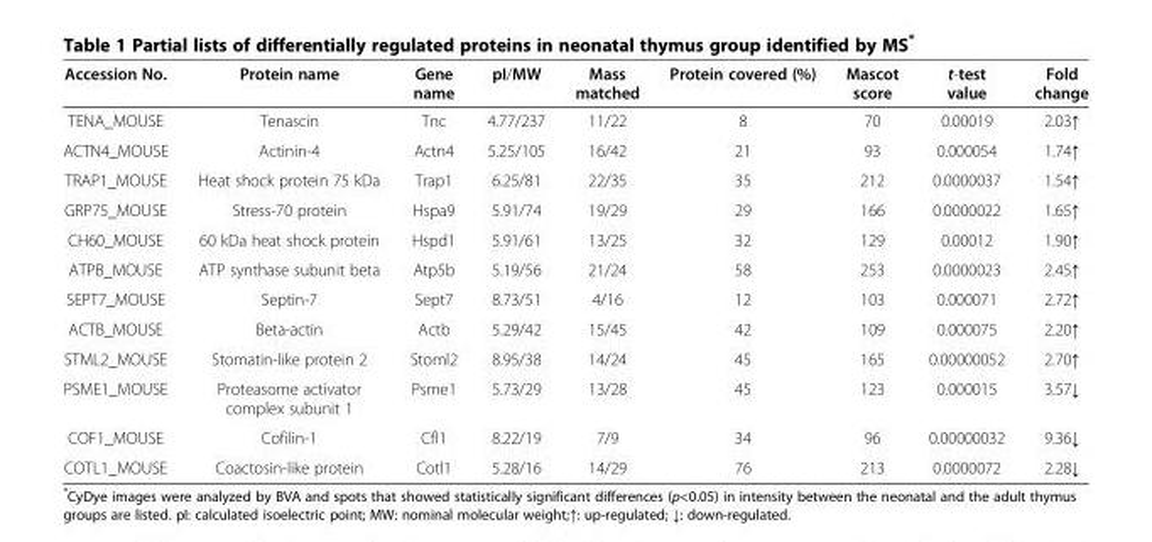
<table><thead><tr><td>Accession No.</td><td>Protein name</td><td>Gene name</td><td>pI/MW</td><td>Mass matched</td><td>Protein covered (%)</td><td>Mascot score</td><td>t-test value</td><td>Fold change</td></tr></thead><tbody><tr><td>TENA_MOUSE</td><td>Tenascin</td><td>Tnc</td><td>4.77/237</td><td>11/22</td><td>8</td><td>70</td><td>0.00019</td><td>2.03↑</td></tr><tr><td>ACTN4_MOUSE</td><td>Actinin-4</td><td>Actn4</td><td>5.25/105</td><td>16/42</td><td>21</td><td>93</td><td>0.000054</td><td>1.74↑</td></tr><tr><td>TRAP1_MOUSE</td><td>Heat shock protein 75 kDa</td><td>Trap1</td><td>6.25/81</td><td>22/35</td><td>35</td><td>212</td><td>0.0000037</td><td>1.54↑</td></tr><tr><td>GRP75_MOUSE</td><td>Stress-70 protein</td><td>Hspa9</td><td>5.91/74</td><td>19/29</td><td>29</td><td>166</td><td>0.0000022</td><td>1.65↑</td></tr><tr><td>CH60_MOUSE</td><td>60 kDa heat shock protein</td><td>Hspd1</td><td>5.91/61</td><td>13/25</td><td>32</td><td>129</td><td>0.00012</td><td>1.90↑</td></tr><tr><td>ATPB_MOUSE</td><td>ATP synthase subunit beta</td><td>Atp5b</td><td>5.19/56</td><td>21/24</td><td>58</td><td>253</td><td>0.0000023</td><td>2.45↑</td></tr><tr><td>SEPT7_MOUSE</td><td>Septin-7</td><td>Sept7</td><td>8.73/51</td><td>4/16</td><td>12</td><td>103</td><td>0.000071</td><td>2.72↑</td></tr><tr><td>ACTB_MOUSE</td><td>Beta-actin</td><td>Actb</td><td>5.29/42</td><td>15/45</td><td>42</td><td>109</td><td>0.000075</td><td>2.20↑</td></tr><tr><td>STML2_MOUSE</td><td>Stomatin-like protein 2</td><td>Stoml2</td><td>8.95/38</td><td>14/24</td><td>45</td><td>165</td><td>0.00000052</td><td>2.70↑</td></tr><tr><td>PSME1_MOUSE</td><td>Proteasome activator complex subunit 1</td><td>Psme1</td><td>5.73/29</td><td>13/28</td><td>45</td><td>123</td><td>0.000015</td><td>3.57↓</td></tr><tr><td>COF1_MOUSE</td><td>Cofilin-1</td><td>Cfl1</td><td>8.22/19</td><td>7/9</td><td>34</td><td>96</td><td>0.00000032</td><td>9.36↓</td></tr><tr><td>COTL1_MOUSE</td><td>Coactosin-like protein</td><td>Cotl1</td><td>5.28/16</td><td>14/29</td><td>76</td><td>213</td><td>0.0000072</td><td>2.28↓</td></tr></tbody></table>